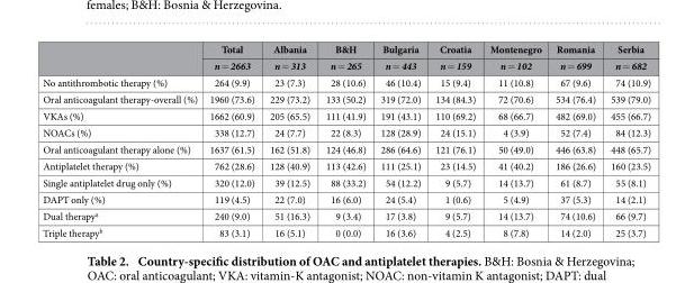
<table><thead><tr><td rowspan="2"></td><td rowspan="2">Total n = 2663</td><td rowspan="2">Albania n = 313</td><td rowspan="2">B&amp;H n = 265</td><td rowspan="2">Bulgaria n = 443</td><td rowspan="2">Croatia n = 159</td><td rowspan="2">Montenegro n = 102</td><td rowspan="2">Romania n = 699</td><td rowspan="2">Serbia n = 682</td></tr><tr></tr></thead><tbody><tr><td>No antithrombotic therapy (%)</td><td>264 (9.9)</td><td>23 (7.3)</td><td>28 (10.6)</td><td>46 (10.4)</td><td>15 (9.4)</td><td>11 (10.8)</td><td>67 (9.6)</td><td>74 (10.9)</td></tr><tr><td>Oral anticoagulant therapy-overall (%)</td><td>1960 (73.6)</td><td>229 (73.2)</td><td>133 (50.2)</td><td>319 (72.0)</td><td>134 (84.3)</td><td>72 (70.6)</td><td>534 (76.4)</td><td>539 (79.0)</td></tr><tr><td>VKAs (%)</td><td>1662 (60.9)</td><td>205 (65.5)</td><td>111 (41.9)</td><td>191 (43.1)</td><td>110 (69.2)</td><td>68 (66.7)</td><td>482 (69.0)</td><td>455 (66.7)</td></tr><tr><td>NOACs (%)</td><td>338 (12.7)</td><td>24 (7.7)</td><td>22 (8.3)</td><td>128 (28.9)</td><td>24 (15.1)</td><td>4 (3.9)</td><td>52 (7.4)</td><td>84 (12.3)</td></tr><tr><td>Oral anticoagulant therapy alone (%)</td><td>1637 (61.5)</td><td>162 (51.8)</td><td>124 (46.8)</td><td>286 (64.6)</td><td>121 (76.1)</td><td>50 (49.0)</td><td>446 (63.8)</td><td>448 (65.7)</td></tr><tr><td>Antiplatelet therapy (%)</td><td>762 (28.6)</td><td>128 (40.9)</td><td>113 (42.6)</td><td>111 (25.1)</td><td>23 (14.5)</td><td>41 (40.2)</td><td>186 (26.6)</td><td>160 (23.5)</td></tr><tr><td>Single antiplatelet drug only (%)</td><td>320 (12.0)</td><td>39 (12.5)</td><td>88 (33.2)</td><td>54 (12.2)</td><td>9 (5.7)</td><td>14 (13.7)</td><td>61 (8.7)</td><td>55 (8.1)</td></tr><tr><td>DAPT only (%)</td><td>119 (4.5)</td><td>22 (7.0)</td><td>16 (6.0)</td><td>24 (5.4)</td><td>1 (0.6)</td><td>5 (4.9)</td><td>37 (5.3)</td><td>14 (2.1)</td></tr><tr><td>Dual therapy<sup>a</sup></td><td>240 (9.0)</td><td>51 (16.3)</td><td>9 (3.4)</td><td>17 (3.8)</td><td>9 (5.7)</td><td>14 (13.7)</td><td>74 (10.6)</td><td>66 (9.7)</td></tr><tr><td>Triple therapy<sup>b</sup></td><td>83 (3.1)</td><td>16 (5.1)</td><td>0 (0.0)</td><td>16 (3.6)</td><td>4 (2.5)</td><td>8 (7.8)</td><td>14 (2.0)</td><td>25 (3.7)</td></tr></tbody></table>